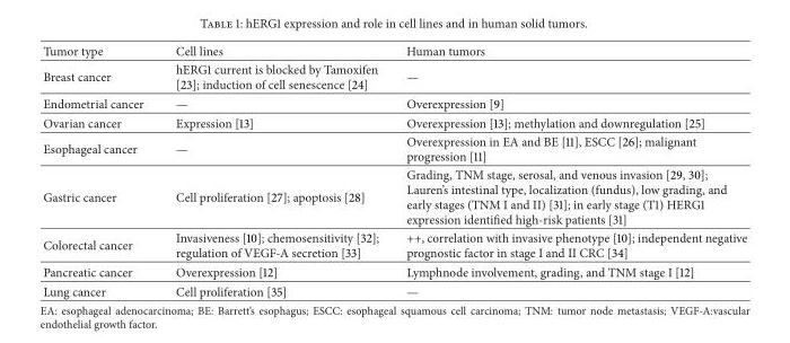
<table><thead><tr><td>Tumor type</td><td>Cell lines</td><td>Human tumors</td></tr></thead><tbody><tr><td>Breast cancer</td><td>hERG1 current is blocked by Tamoxifen [23]; induction of cell senescence [24]</td><td>—</td></tr><tr><td>Endometrial cancer</td><td>—</td><td>Overexpression [9]</td></tr><tr><td>Ovarian cancer</td><td>Expression [13]</td><td>Overexpression [13]; methylation and downregulation [25]</td></tr><tr><td>Esophageal cancer</td><td>—</td><td>Overexpression in EA and BE [11], ESCC [26]; malignant progression [11]</td></tr><tr><td>Gastric cancer</td><td>Cell proliferation [27]; apoptosis [28]</td><td>Grading, TNM stage, serosal, and venous invasion [29, 30]; Lauren’s intestinal type, localization (fundus), low grading, and early stages (TNM I and II) [31]; in early stage (T1) HERG1 expression identified high-risk patients [31]</td></tr><tr><td>Colorectal cancer</td><td>Invasiveness [10]; chemosensitivity [32]; regulation of VEGF-A secretion [33]</td><td>++, correlation with invasive phenotype [10]; independent negative prognostic factor in stage I and II CRC [34]</td></tr><tr><td>Pancreatic cancer</td><td>Overexpression [12]</td><td>Lymphnode involvement, grading, and TNM stage I [12]</td></tr><tr><td>Lung cancer</td><td>Cell proliferation [35]</td><td>—</td></tr></tbody></table>